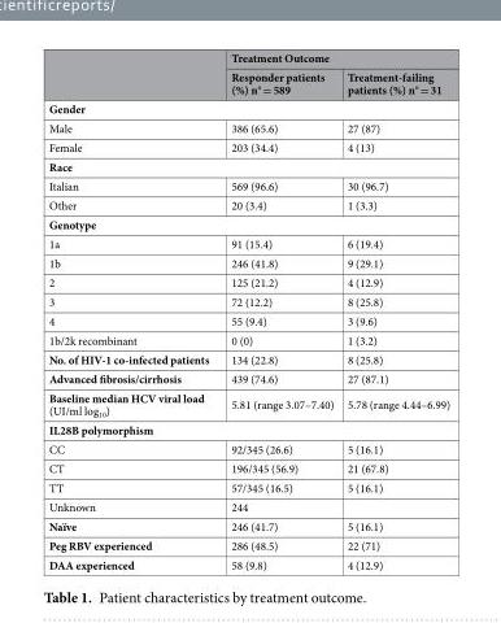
<table><thead><tr><td rowspan="2"></td><td colspan="2">Treatment Outcome</td></tr><tr><td>Responder patients (%) n° = 589</td><td>Treatment-failing patients (%) n° = 31</td></tr></thead><tbody><tr><td colspan="3">Gender</td></tr><tr><td>Male</td><td>386 (65.6)</td><td>27 (87)</td></tr><tr><td>Female</td><td>203 (34.4)</td><td>4 (13)</td></tr><tr><td colspan="3">Race</td></tr><tr><td>Italian</td><td>569 (96.6)</td><td>30 (96.7)</td></tr><tr><td>Other</td><td>20 (3.4)</td><td>1 (3.3)</td></tr><tr><td colspan="3">Genotype</td></tr><tr><td>1a</td><td>91 (15.4)</td><td>6 (19.4)</td></tr><tr><td>1b</td><td>246 (41.8)</td><td>9 (29.1)</td></tr><tr><td>2</td><td>125 (21.2)</td><td>4 (12.9)</td></tr><tr><td>3</td><td>72 (12.2)</td><td>8 (25.8)</td></tr><tr><td>4</td><td>55 (9.4)</td><td>3 (9.6)</td></tr><tr><td>1b/2k recombinant</td><td>0 (0)</td><td>1 (3.2)</td></tr><tr><td>No. of HIV-1 co-infected patients</td><td>134 (22.8)</td><td>8 (25.8)</td></tr><tr><td>Advanced fibrosis/cirrhosis</td><td>439 (74.6)</td><td>27 (87.1)</td></tr><tr><td>Baseline median HCV viral load (UI/ml log<sub>10</sub>)</td><td>5.81 (range 3.07–7.40)</td><td>5.78 (range 4.44–6.99)</td></tr><tr><td colspan="3">IL28B polymorphism</td></tr><tr><td>CC</td><td>92/345 (26.6)</td><td>5 (16.1)</td></tr><tr><td>CT</td><td>196/345 (56.9)</td><td>21 (67.8)</td></tr><tr><td>TT</td><td>57/345 (16.5)</td><td>5 (16.1)</td></tr><tr><td>Unknown</td><td>244</td><td></td></tr><tr><td>Naïve</td><td>246 (41.7)</td><td>5 (16.1)</td></tr><tr><td>Peg RBV experienced</td><td>286 (48.5)</td><td>22 (71)</td></tr><tr><td>DAA experienced</td><td>58 (9.8)</td><td>4 (12.9)</td></tr></tbody></table>